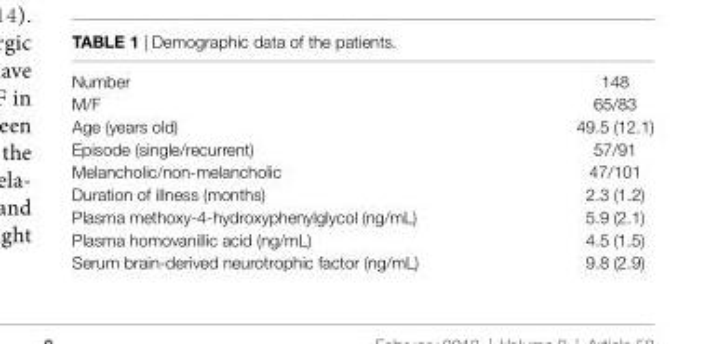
<table><tbody><tr><td>Number</td><td>148</td></tr><tr><td>M/F</td><td>65/83</td></tr><tr><td>Age (years old)</td><td>49.5 (12.1)</td></tr><tr><td>Episode (single/recurrent)</td><td>57/91</td></tr><tr><td>Melancholic/non-melancholic</td><td>47/101</td></tr><tr><td>Duration of illness (months)</td><td>2.3 (1.2)</td></tr><tr><td>Plasma methoxy-4-hydroxyphenylglycol (ng/mL)</td><td>5.9 (2.1)</td></tr><tr><td>Plasma homovanillic acid (ng/mL)</td><td>4.5 (1.5)</td></tr><tr><td>Serum brain-derived neurotrophic factor (ng/mL)</td><td>9.8 (2.9)</td></tr></tbody></table>